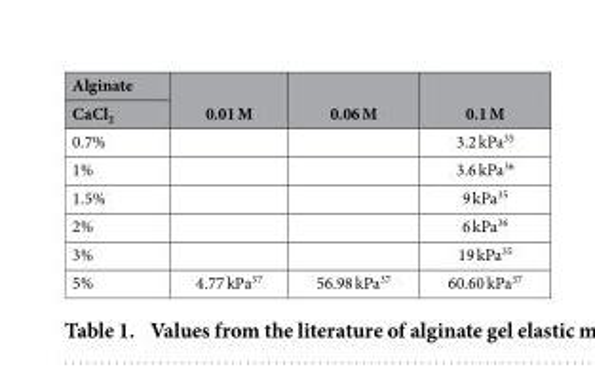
<table><thead><tr><td rowspan="2">Alginate CaCl<sub>2</sub></td><td rowspan="2">0.01 M</td><td rowspan="2">0.06 M</td><td rowspan="2">0.1 M</td></tr><tr></tr></thead><tbody><tr><td>0.7%</td><td></td><td></td><td>3.2 kPa<sup>35</sup></td></tr><tr><td>1%</td><td></td><td></td><td>3.6 kPa<sup>36</sup></td></tr><tr><td>1.5%</td><td></td><td></td><td>9 kPa<sup>35</sup></td></tr><tr><td>2%</td><td></td><td></td><td>6 kPa<sup>36</sup></td></tr><tr><td>3%</td><td></td><td></td><td>19 kPa<sup>35</sup></td></tr><tr><td>5%</td><td>4.77 kPa<sup>37</sup></td><td>56.98 kPa<sup>37</sup></td><td>60.60 kPa<sup>37</sup></td></tr></tbody></table>